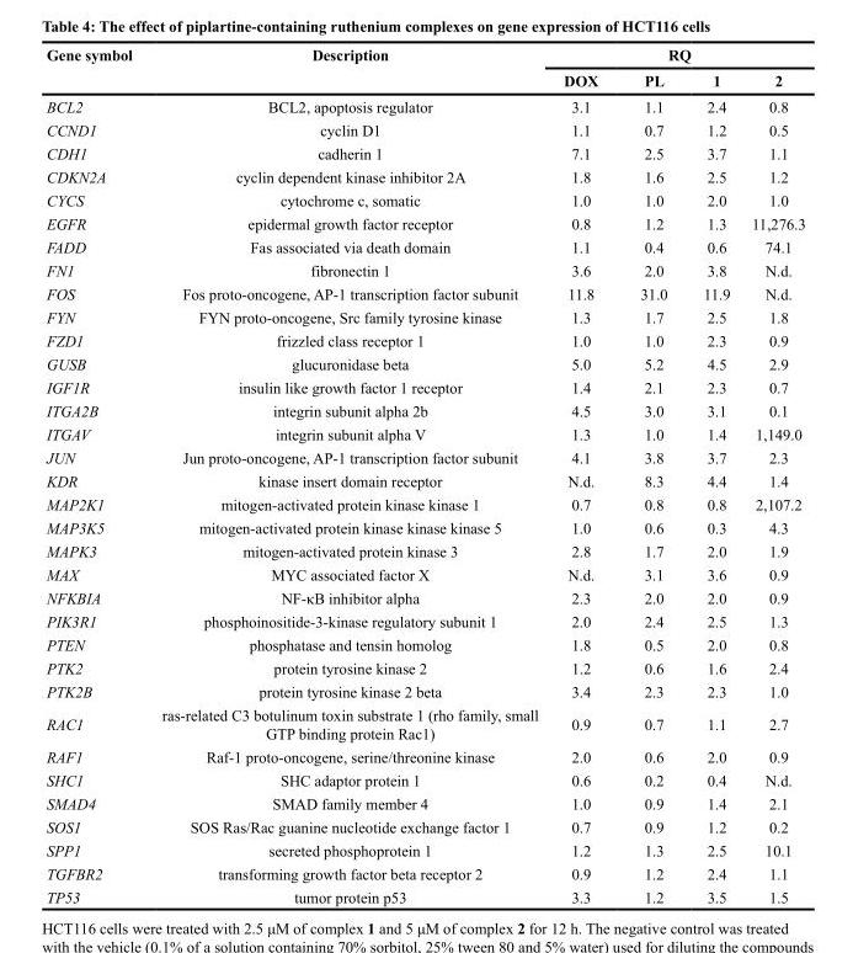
<table><thead><tr><td rowspan="2">Gene symbol</td><td rowspan="2">Description</td><td colspan="4">RQ</td></tr><tr><td>DOX</td><td>PL</td><td>1</td><td>2</td></tr></thead><tbody><tr><td>BCL2</td><td>BCL2, apoptosis regulator</td><td>3.1</td><td>1.1</td><td>2.4</td><td>0.8</td></tr><tr><td>CCND1</td><td>cyclin D1</td><td>1.1</td><td>0.7</td><td>1.2</td><td>0.5</td></tr><tr><td>CDH1</td><td>cadherin 1</td><td>7.1</td><td>2.5</td><td>3.7</td><td>1.1</td></tr><tr><td>CDKN2A</td><td>cyclin dependent kinase inhibitor 2A</td><td>1.8</td><td>1.6</td><td>2.5</td><td>1.2</td></tr><tr><td>CYCS</td><td>cytochrome c, somatic</td><td>1.0</td><td>1.0</td><td>2.0</td><td>1.0</td></tr><tr><td>EGFR</td><td>epidermal growth factor receptor</td><td>0.8</td><td>1.2</td><td>1.3</td><td>11,276.3</td></tr><tr><td>FADD</td><td>Fas associated via death domain</td><td>1.1</td><td>0.4</td><td>0.6</td><td>74.1</td></tr><tr><td>FN1</td><td>fibronectin 1</td><td>3.6</td><td>2.0</td><td>3.8</td><td>N.d.</td></tr><tr><td>FOS</td><td>Fos proto-oncogene, AP-1 transcription factor subunit</td><td>11.8</td><td>31.0</td><td>11.9</td><td>N.d.</td></tr><tr><td>FYN</td><td>FYN proto-oncogene, Src family tyrosine kinase</td><td>1.3</td><td>1.7</td><td>2.5</td><td>1.8</td></tr><tr><td>FZD1</td><td>frizzled class receptor 1</td><td>1.0</td><td>1.0</td><td>2.3</td><td>0.9</td></tr><tr><td>GUSB</td><td>glucuronidase beta</td><td>5.0</td><td>5.2</td><td>4.5</td><td>2.9</td></tr><tr><td>IGF1R</td><td>insulin like growth factor 1 receptor</td><td>1.4</td><td>2.1</td><td>2.3</td><td>0.7</td></tr><tr><td>ITGA2B</td><td>integrin subunit alpha 2b</td><td>4.5</td><td>3.0</td><td>3.1</td><td>0.1</td></tr><tr><td>ITGAV</td><td>integrin subunit alpha V</td><td>1.3</td><td>1.0</td><td>1.4</td><td>1,149.0</td></tr><tr><td>JUN</td><td>Jun proto-oncogene, AP-1 transcription factor subunit</td><td>4.1</td><td>3.8</td><td>3.7</td><td>2.3</td></tr><tr><td>KDR</td><td>kinase insert domain receptor</td><td>N.d.</td><td>8.3</td><td>4.4</td><td>1.4</td></tr><tr><td>MAP2K1</td><td>mitogen-activated protein kinase kinase 1</td><td>0.7</td><td>0.8</td><td>0.8</td><td>2,107.2</td></tr><tr><td>MAP3K5</td><td>mitogen-activated protein kinase kinase kinase 5</td><td>1.0</td><td>0.6</td><td>0.3</td><td>4.3</td></tr><tr><td>MAPK3</td><td>mitogen-activated protein kinase 3</td><td>2.8</td><td>1.7</td><td>2.0</td><td>1.9</td></tr><tr><td>MAX</td><td>MYC associated factor X</td><td>N.d.</td><td>3.1</td><td>3.6</td><td>0.9</td></tr><tr><td>NFKBIA</td><td>NF-κB inhibitor alpha</td><td>2.3</td><td>2.0</td><td>2.0</td><td>0.9</td></tr><tr><td>PIK3R1</td><td>phosphoinositide-3-kinase regulatory subunit 1</td><td>2.0</td><td>2.4</td><td>2.5</td><td>1.3</td></tr><tr><td>PTEN</td><td>phosphatase and tensin homolog</td><td>1.8</td><td>0.5</td><td>2.0</td><td>0.8</td></tr><tr><td>PTK2</td><td>protein tyrosine kinase 2</td><td>1.2</td><td>0.6</td><td>1.6</td><td>2.4</td></tr><tr><td>PTK2B</td><td>protein tyrosine kinase 2 beta</td><td>3.4</td><td>2.3</td><td>2.3</td><td>1.0</td></tr><tr><td>RAC1</td><td>ras-related C3 botulinum toxin substrate 1 (rho family, small GTP binding protein Rac1)</td><td>0.9</td><td>0.7</td><td>1.1</td><td>2.7</td></tr><tr><td>RAF1</td><td>Raf-1 proto-oncogene, serine/threonine kinase</td><td>2.0</td><td>0.6</td><td>2.0</td><td>0.9</td></tr><tr><td>SHC1</td><td>SHC adaptor protein 1</td><td>0.6</td><td>0.2</td><td>0.4</td><td>N.d.</td></tr><tr><td>SMAD4</td><td>SMAD family member 4</td><td>1.0</td><td>0.9</td><td>1.4</td><td>2.1</td></tr><tr><td>SOS1</td><td>SOS Ras/Rac guanine nucleotide exchange factor 1</td><td>0.7</td><td>0.9</td><td>1.2</td><td>0.2</td></tr><tr><td>SPP1</td><td>secreted phosphoprotein 1</td><td>1.2</td><td>1.3</td><td>2.5</td><td>10.1</td></tr><tr><td>TGFBR2</td><td>transforming growth factor beta receptor 2</td><td>0.9</td><td>1.2</td><td>2.4</td><td>1.1</td></tr><tr><td>TP53</td><td>tumor protein p53</td><td>3.3</td><td>1.2</td><td>3.5</td><td>1.5</td></tr></tbody></table>